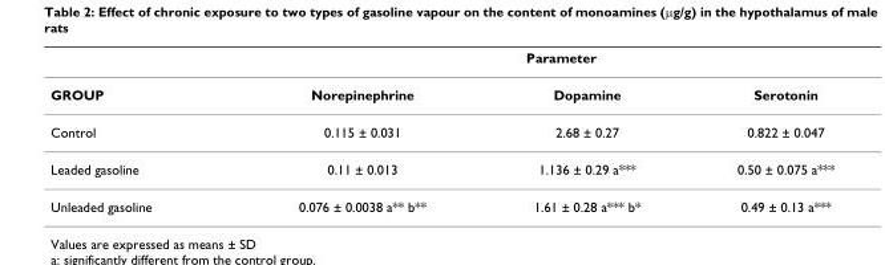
<table><thead><tr><td rowspan="2">GROUP</td><td colspan="3">Parameter</td></tr><tr><td>Norepinephrine</td><td>Dopamine</td><td>Serotonin</td></tr></thead><tbody><tr><td>Control</td><td>0.115 ± 0.031</td><td>2.68 ± 0.27</td><td>0.822 ± 0.047</td></tr><tr><td>Leaded gasoline</td><td>0.11 ± 0.013</td><td>1.136 ± 0.29 a***</td><td>0.50 ± 0.075 a***</td></tr><tr><td>Unleaded gasoline</td><td>0.076 ± 0.0038 a** b**</td><td>1.61 ± 0.28 a*** b*</td><td>0.49 ± 0.13 a***</td></tr></tbody></table>